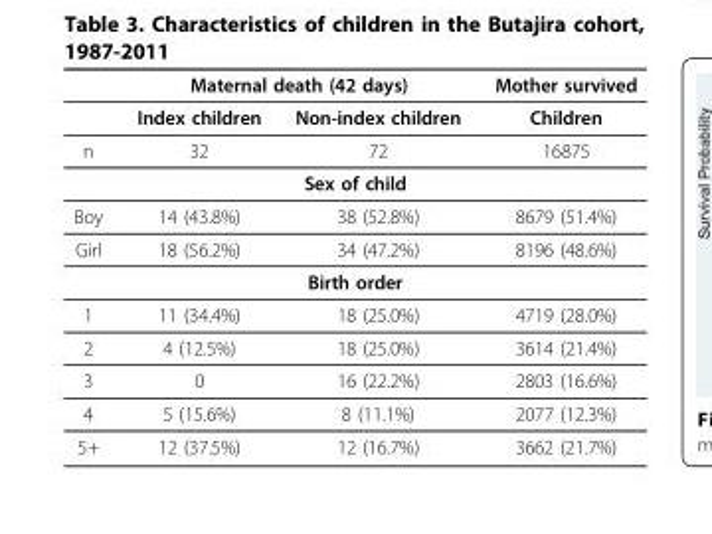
<table><thead><tr><td rowspan="2"></td><td colspan="2">Maternal death (42 days)</td><td rowspan="2">Mother survived Children</td></tr><tr><td>Index children</td><td>Non-index children</td></tr></thead><tbody><tr><td>n</td><td>32</td><td>72</td><td>16875</td></tr><tr><td colspan="4">Sex of child</td></tr><tr><td>Boy</td><td>14 (43.8%)</td><td>38 (52.8%)</td><td>8679 (51.4%)</td></tr><tr><td>Girl</td><td>18 (56.2%)</td><td>34 (47.2%)</td><td>8196 (48.6%)</td></tr><tr><td colspan="4">Birth order</td></tr><tr><td>1</td><td>11 (34.4%)</td><td>18 (25.0%)</td><td>4719 (28.0%)</td></tr><tr><td>2</td><td>4 (12.5%)</td><td>18 (25.0%)</td><td>3614 (21.4%)</td></tr><tr><td>3</td><td>0</td><td>16 (22.2%)</td><td>2803 (16.6%)</td></tr><tr><td>4</td><td>5 (15.6%)</td><td>8 (11.1%)</td><td>2077 (12.3%)</td></tr><tr><td>5+</td><td>12 (37.5%)</td><td>12 (16.7%)</td><td>3662 (21.7%)</td></tr></tbody></table>